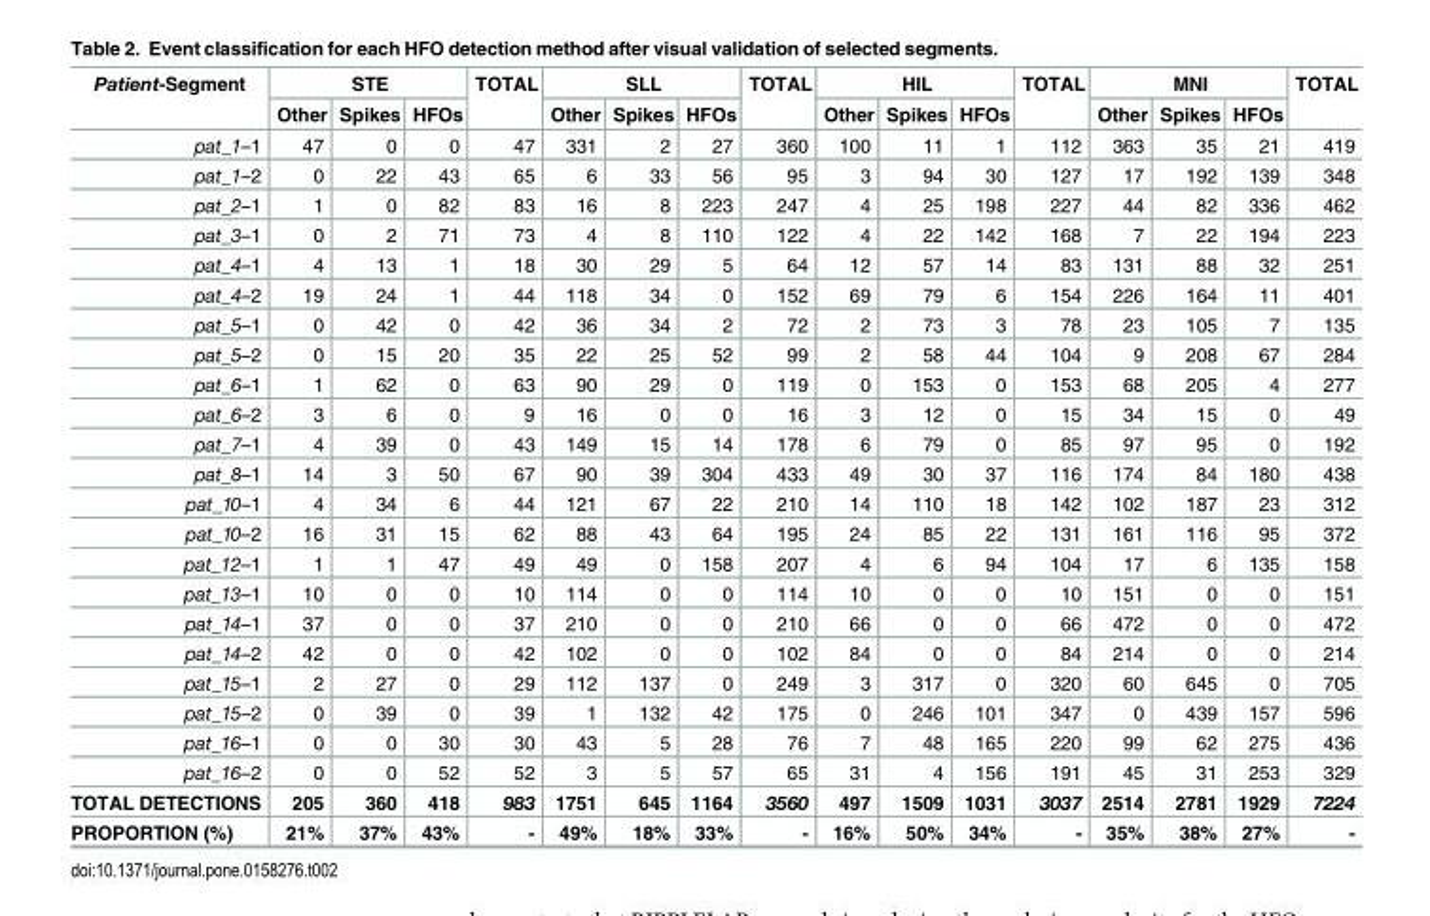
<table><thead><tr><td rowspan="2">Patient-Segment</td><td colspan="3">STE</td><td rowspan="2">TOTAL</td><td colspan="3">SLL</td><td rowspan="2">TOTAL</td><td colspan="3">HIL</td><td rowspan="2">TOTAL</td><td colspan="3">MNI</td><td rowspan="2">TOTAL</td></tr><tr><td>Other</td><td>Spikes</td><td>HFOs</td><td>Other</td><td>Spikes</td><td>HFOs</td><td>Other</td><td>Spikes</td><td>HFOs</td><td>Other</td><td>Spikes</td><td>HFOs</td></tr></thead><tbody><tr><td>pat_1–1</td><td>47</td><td>0</td><td>0</td><td>47</td><td>331</td><td>2</td><td>27</td><td>360</td><td>100</td><td>11</td><td>1</td><td>112</td><td>363</td><td>35</td><td>21</td><td>419</td></tr><tr><td>pat_1–2</td><td>0</td><td>22</td><td>43</td><td>65</td><td>6</td><td>33</td><td>56</td><td>95</td><td>3</td><td>94</td><td>30</td><td>127</td><td>17</td><td>192</td><td>139</td><td>348</td></tr><tr><td>pat_2–1</td><td>1</td><td>0</td><td>82</td><td>83</td><td>16</td><td>8</td><td>223</td><td>247</td><td>4</td><td>25</td><td>198</td><td>227</td><td>44</td><td>82</td><td>336</td><td>462</td></tr><tr><td>pat_3–1</td><td>0</td><td>2</td><td>71</td><td>73</td><td>4</td><td>8</td><td>110</td><td>122</td><td>4</td><td>22</td><td>142</td><td>168</td><td>7</td><td>22</td><td>194</td><td>223</td></tr><tr><td>pat_4–1</td><td>4</td><td>13</td><td>1</td><td>18</td><td>30</td><td>29</td><td>5</td><td>64</td><td>12</td><td>57</td><td>14</td><td>83</td><td>131</td><td>88</td><td>32</td><td>251</td></tr><tr><td>pat_4–2</td><td>19</td><td>24</td><td>1</td><td>44</td><td>118</td><td>34</td><td>0</td><td>152</td><td>69</td><td>79</td><td>6</td><td>154</td><td>226</td><td>164</td><td>11</td><td>401</td></tr><tr><td>pat_5–1</td><td>0</td><td>42</td><td>0</td><td>42</td><td>36</td><td>34</td><td>2</td><td>72</td><td>2</td><td>73</td><td>3</td><td>78</td><td>23</td><td>105</td><td>7</td><td>135</td></tr><tr><td>pat_5–2</td><td>0</td><td>15</td><td>20</td><td>35</td><td>22</td><td>25</td><td>52</td><td>99</td><td>2</td><td>58</td><td>44</td><td>104</td><td>9</td><td>208</td><td>67</td><td>284</td></tr><tr><td>pat_6–1</td><td>1</td><td>62</td><td>0</td><td>63</td><td>90</td><td>29</td><td>0</td><td>119</td><td>0</td><td>153</td><td>0</td><td>153</td><td>68</td><td>205</td><td>4</td><td>277</td></tr><tr><td>pat_6–2</td><td>3</td><td>6</td><td>0</td><td>9</td><td>16</td><td>0</td><td>0</td><td>16</td><td>3</td><td>12</td><td>0</td><td>15</td><td>34</td><td>15</td><td>0</td><td>49</td></tr><tr><td>pat_7–1</td><td>4</td><td>39</td><td>0</td><td>43</td><td>149</td><td>15</td><td>14</td><td>178</td><td>6</td><td>79</td><td>0</td><td>85</td><td>97</td><td>95</td><td>0</td><td>192</td></tr><tr><td>pat_8–1</td><td>14</td><td>3</td><td>50</td><td>67</td><td>90</td><td>39</td><td>304</td><td>433</td><td>49</td><td>30</td><td>37</td><td>116</td><td>174</td><td>84</td><td>180</td><td>438</td></tr><tr><td>pat_10–1</td><td>4</td><td>34</td><td>6</td><td>44</td><td>121</td><td>67</td><td>22</td><td>210</td><td>14</td><td>110</td><td>18</td><td>142</td><td>102</td><td>187</td><td>23</td><td>312</td></tr><tr><td>pat_10–2</td><td>16</td><td>31</td><td>15</td><td>62</td><td>88</td><td>43</td><td>64</td><td>195</td><td>24</td><td>85</td><td>22</td><td>131</td><td>161</td><td>116</td><td>95</td><td>372</td></tr><tr><td>pat_12–1</td><td>1</td><td>1</td><td>47</td><td>49</td><td>49</td><td>0</td><td>158</td><td>207</td><td>4</td><td>6</td><td>94</td><td>104</td><td>17</td><td>6</td><td>135</td><td>158</td></tr><tr><td>pat_13–1</td><td>10</td><td>0</td><td>0</td><td>10</td><td>114</td><td>0</td><td>0</td><td>114</td><td>10</td><td>0</td><td>0</td><td>10</td><td>151</td><td>0</td><td>0</td><td>151</td></tr><tr><td>pat_14–1</td><td>37</td><td>0</td><td>0</td><td>37</td><td>210</td><td>0</td><td>0</td><td>210</td><td>66</td><td>0</td><td>0</td><td>66</td><td>472</td><td>0</td><td>0</td><td>472</td></tr><tr><td>pat_14–2</td><td>42</td><td>0</td><td>0</td><td>42</td><td>102</td><td>0</td><td>0</td><td>102</td><td>84</td><td>0</td><td>0</td><td>84</td><td>214</td><td>0</td><td>0</td><td>214</td></tr><tr><td>pat_15–1</td><td>2</td><td>27</td><td>0</td><td>29</td><td>112</td><td>137</td><td>0</td><td>249</td><td>3</td><td>317</td><td>0</td><td>320</td><td>60</td><td>645</td><td>0</td><td>705</td></tr><tr><td>pat_15–2</td><td>0</td><td>39</td><td>0</td><td>39</td><td>1</td><td>132</td><td>42</td><td>175</td><td>0</td><td>246</td><td>101</td><td>347</td><td>0</td><td>439</td><td>157</td><td>596</td></tr><tr><td>pat_16–1</td><td>0</td><td>0</td><td>30</td><td>30</td><td>43</td><td>5</td><td>28</td><td>76</td><td>7</td><td>48</td><td>165</td><td>220</td><td>99</td><td>62</td><td>275</td><td>436</td></tr><tr><td>pat_16–2</td><td>0</td><td>0</td><td>52</td><td>52</td><td>3</td><td>5</td><td>57</td><td>65</td><td>31</td><td>4</td><td>156</td><td>191</td><td>45</td><td>31</td><td>253</td><td>329</td></tr><tr><td>TOTAL DETECTIONS</td><td>205</td><td>360</td><td>418</td><td>983</td><td>1751</td><td>645</td><td>1164</td><td>3560</td><td>497</td><td>1509</td><td>1031</td><td>3037</td><td>2514</td><td>2781</td><td>1929</td><td>7224</td></tr><tr><td>PROPORTION (%)</td><td>21%</td><td>37%</td><td>43%</td><td>-</td><td>49%</td><td>18%</td><td>33%</td><td>-</td><td>16%</td><td>50%</td><td>34%</td><td>-</td><td>35%</td><td>38%</td><td>27%</td><td>-</td></tr></tbody></table>